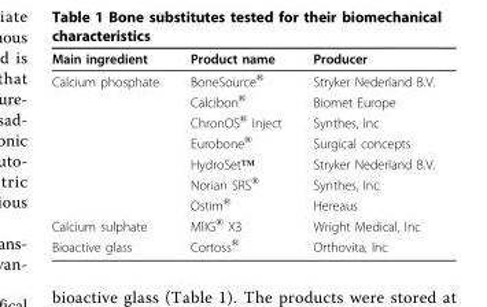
<table><thead><tr><td>Main ingredient</td><td>Product name</td><td>Producer</td></tr></thead><tbody><tr><td rowspan="7">Calcium phosphate</td><td>BoneSource<sup>®</sup></td><td>Stryker Nederland B.V.</td></tr><tr><td>Calcibon<sup>®</sup></td><td>Biomet Europe</td></tr><tr><td>ChronOS<sup>®</sup> Inject</td><td>Synthes, Inc</td></tr><tr><td>Eurobone<sup>®</sup></td><td>Surgical concepts</td></tr><tr><td>HydroSet™</td><td>Stryker Nederland B.V.</td></tr><tr><td>Norian SRS<sup>®</sup></td><td>Synthes, Inc</td></tr><tr><td>Ostim<sup>®</sup></td><td>Hereaus</td></tr><tr><td>Calcium sulphate</td><td>MIIG<sup>®</sup> X3</td><td>Wright Medical, Inc</td></tr><tr><td>Bioactive glass</td><td>Cortoss<sup>®</sup></td><td>Orthovita, Inc</td></tr></tbody></table>